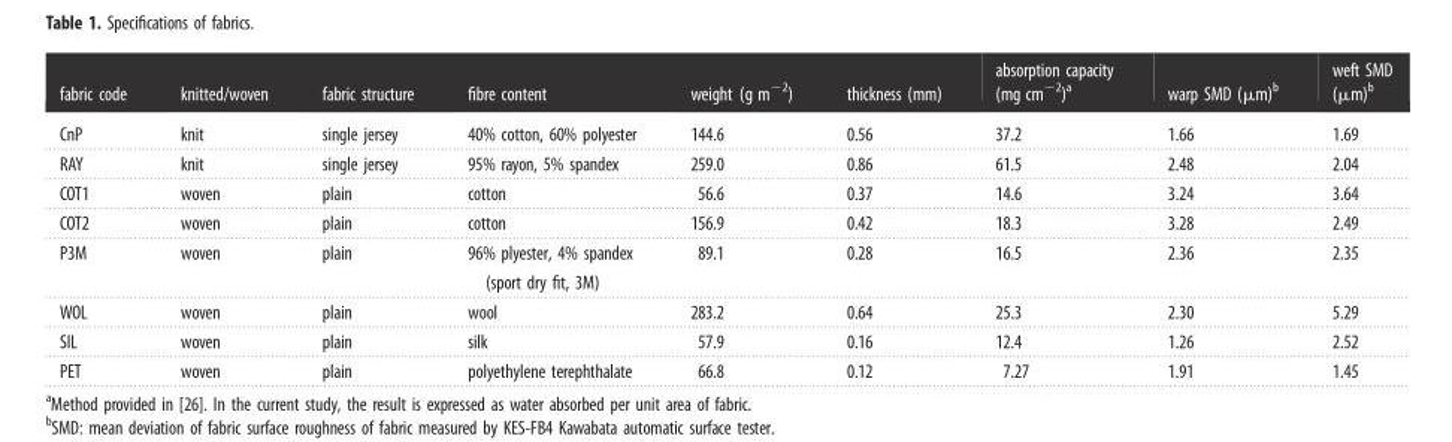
<table><thead><tr><td>fabric code</td><td>knitted/woven</td><td>fabric structure</td><td>fibre content</td><td>weight (g m<sup>−2</sup>)</td><td>thickness (mm)</td><td>absorption capacity (mg cm<sup>−2</sup>)<sup>a</sup></td><td>warp SMD (µm)<sup>b</sup></td><td>weft SMD (µm)<sup>b</sup></td></tr></thead><tbody><tr><td>CnP</td><td>knit</td><td>single jersey</td><td>40% cotton, 60% polyester</td><td>144.6</td><td>0.56</td><td>37.2</td><td>1.66</td><td>1.69</td></tr><tr><td>RAY</td><td>knit</td><td>single jersey</td><td>95% rayon, 5% spandex</td><td>259.0</td><td>0.86</td><td>61.5</td><td>2.48</td><td>2.04</td></tr><tr><td>COT1</td><td>woven</td><td>plain</td><td>cotton</td><td>56.6</td><td>0.37</td><td>14.6</td><td>3.24</td><td>3.64</td></tr><tr><td>COT2</td><td>woven</td><td>plain</td><td>cotton</td><td>156.9</td><td>0.42</td><td>18.3</td><td>3.28</td><td>2.49</td></tr><tr><td>P3M</td><td>woven</td><td>plain</td><td>96% plyester, 4% spandex (sport dry fit, 3M)</td><td>89.1</td><td>0.28</td><td>16.5</td><td>2.36</td><td>2.35</td></tr><tr><td>WOL</td><td>woven</td><td>plain</td><td>wool</td><td>283.2</td><td>0.64</td><td>25.3</td><td>2.30</td><td>5.29</td></tr><tr><td>SIL</td><td>woven</td><td>plain</td><td>silk</td><td>57.9</td><td>0.16</td><td>12.4</td><td>1.26</td><td>2.52</td></tr><tr><td>PET</td><td>woven</td><td>plain</td><td>polyethylene terephthalate</td><td>66.8</td><td>0.12</td><td>7.27</td><td>1.91</td><td>1.45</td></tr></tbody></table>